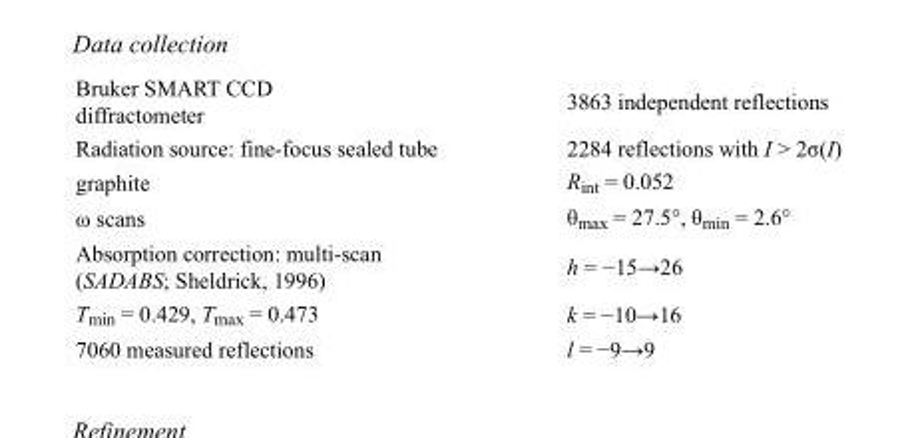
<table><tbody><tr><td>Bruker SMART CCD diffractometer</td><td>3863 independent reflections</td></tr><tr><td>Radiation source: fine-focus sealed tube</td><td>2284 reflections with I &gt; 2σ(I)</td></tr><tr><td>graphite</td><td>R<sub>int</sub> = 0.052</td></tr><tr><td>ω scans</td><td>θ<sub>max</sub> = 27.5°, θ<sub>min</sub> = 2.6°</td></tr><tr><td>Absorption correction: multi-scan (SADABS; Sheldrick, 1996)</td><td>h = −15→26</td></tr><tr><td>T<sub>min</sub> = 0.429, T<sub>max</sub> = 0.473</td><td>k = −10→16</td></tr><tr><td>7060 measured reflections</td><td>l = −9→9</td></tr></tbody></table>